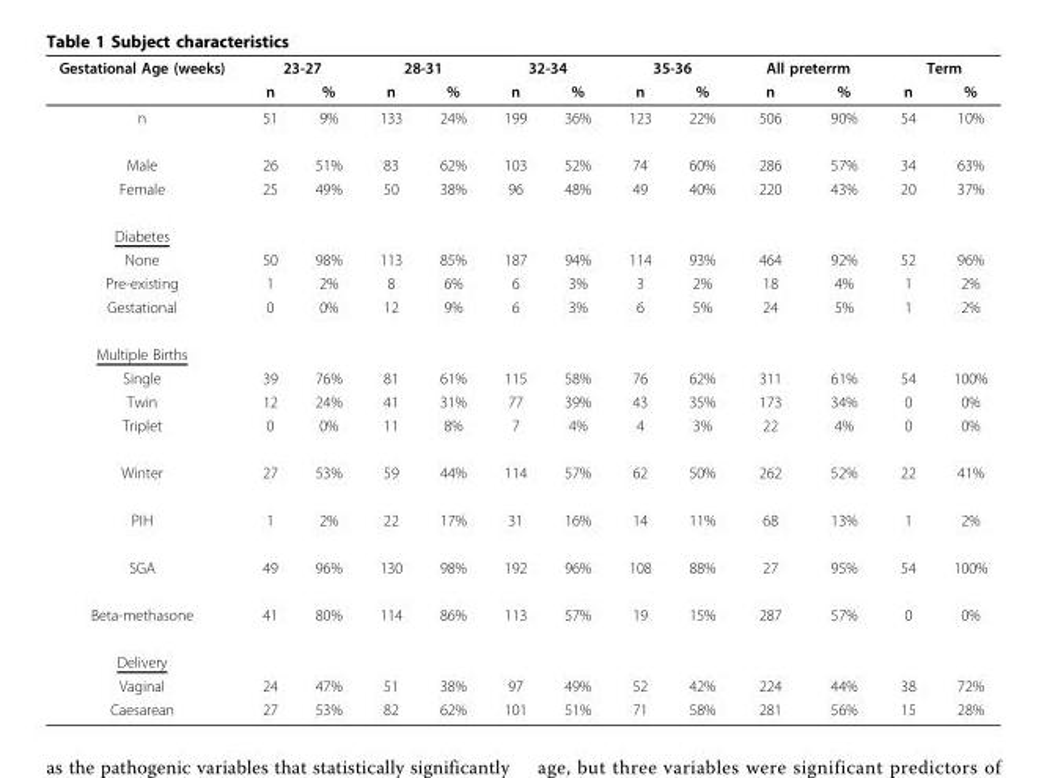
<table><thead><tr><td rowspan="2">Gestational Age (weeks)</td><td colspan="2">23-27</td><td colspan="2">28-31</td><td colspan="2">32-34</td><td colspan="2">35-36</td><td colspan="2">All preterrm</td><td colspan="2">Term</td></tr><tr><td>n</td><td>%</td><td>n</td><td>%</td><td>n</td><td>%</td><td>n</td><td>%</td><td>n</td><td>%</td><td>n</td><td>%</td></tr></thead><tbody><tr><td>n</td><td>51</td><td>9%</td><td>133</td><td>24%</td><td>199</td><td>36%</td><td>123</td><td>22%</td><td>506</td><td>90%</td><td>54</td><td>10%</td></tr><tr><td>Male</td><td>26</td><td>51%</td><td>83</td><td>62%</td><td>103</td><td>52%</td><td>74</td><td>60%</td><td>286</td><td>57%</td><td>34</td><td>63%</td></tr><tr><td>Female</td><td>25</td><td>49%</td><td>50</td><td>38%</td><td>96</td><td>48%</td><td>49</td><td>40%</td><td>220</td><td>43%</td><td>20</td><td>37%</td></tr><tr><td colspan="13">Diabetes</td></tr><tr><td>None</td><td>50</td><td>98%</td><td>113</td><td>85%</td><td>187</td><td>94%</td><td>114</td><td>93%</td><td>464</td><td>92%</td><td>52</td><td>96%</td></tr><tr><td>Pre-existing</td><td>1</td><td>2%</td><td>8</td><td>6%</td><td>6</td><td>3%</td><td>3</td><td>2%</td><td>18</td><td>4%</td><td>1</td><td>2%</td></tr><tr><td>Gestational</td><td>0</td><td>0%</td><td>12</td><td>9%</td><td>6</td><td>3%</td><td>6</td><td>5%</td><td>24</td><td>5%</td><td>1</td><td>2%</td></tr><tr><td colspan="13">Multiple Births</td></tr><tr><td>Single</td><td>39</td><td>76%</td><td>81</td><td>61%</td><td>115</td><td>58%</td><td>76</td><td>62%</td><td>311</td><td>61%</td><td>54</td><td>100%</td></tr><tr><td>Twin</td><td>12</td><td>24%</td><td>41</td><td>31%</td><td>77</td><td>39%</td><td>43</td><td>35%</td><td>173</td><td>34%</td><td>0</td><td>0%</td></tr><tr><td>Triplet</td><td>0</td><td>0%</td><td>11</td><td>8%</td><td>7</td><td>4%</td><td>4</td><td>3%</td><td>22</td><td>4%</td><td>0</td><td>0%</td></tr><tr><td>Winter</td><td>27</td><td>53%</td><td>59</td><td>44%</td><td>114</td><td>57%</td><td>62</td><td>50%</td><td>262</td><td>52%</td><td>22</td><td>41%</td></tr><tr><td>PIH</td><td>1</td><td>2%</td><td>22</td><td>17%</td><td>31</td><td>16%</td><td>14</td><td>11%</td><td>68</td><td>13%</td><td>1</td><td>2%</td></tr><tr><td>SGA</td><td>49</td><td>96%</td><td>130</td><td>98%</td><td>192</td><td>96%</td><td>108</td><td>88%</td><td>27</td><td>95%</td><td>54</td><td>100%</td></tr><tr><td>Beta-methasone</td><td>41</td><td>80%</td><td>114</td><td>86%</td><td>113</td><td>57%</td><td>19</td><td>15%</td><td>287</td><td>57%</td><td>0</td><td>0%</td></tr><tr><td colspan="13">Delivery</td></tr><tr><td>Vaginal</td><td>24</td><td>47%</td><td>51</td><td>38%</td><td>97</td><td>49%</td><td>52</td><td>42%</td><td>224</td><td>44%</td><td>38</td><td>72%</td></tr><tr><td>Caesarean</td><td>27</td><td>53%</td><td>82</td><td>62%</td><td>101</td><td>51%</td><td>71</td><td>58%</td><td>281</td><td>56%</td><td>15</td><td>28%</td></tr></tbody></table>